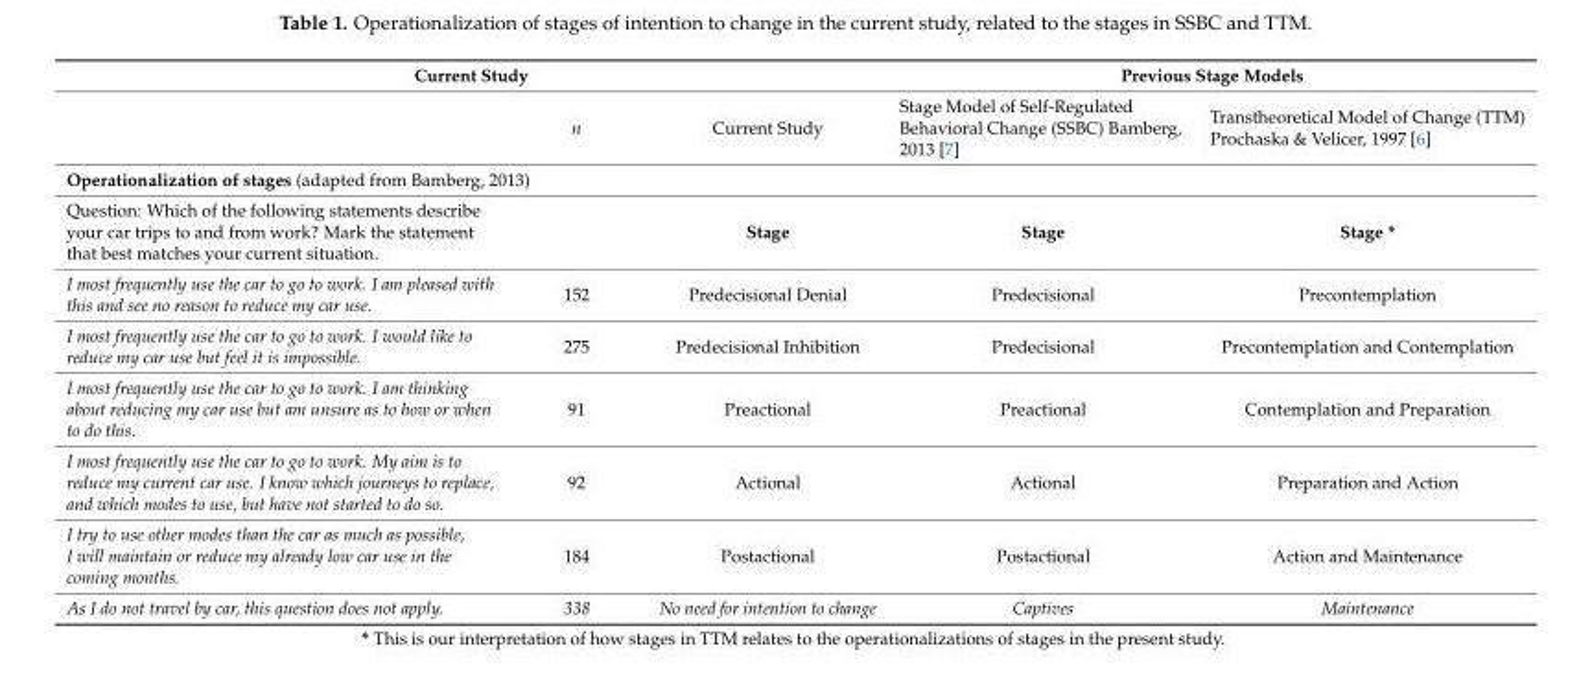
<table><thead><tr><td colspan="3">Current Study</td><td colspan="2">Previous Stage Models</td></tr><tr><td></td><td>n</td><td>Current Study</td><td>Stage Model of Self-Regulated Behavioral Change (SSBC) Bamberg, 2013 [7]</td><td>Transtheoretical Model of Change (TTM) Prochaska &amp; Velicer, 1997 [6]</td></tr></thead><tbody><tr><td colspan="5">Operationalization of stages (adapted from Bamberg, 2013)</td></tr><tr><td>Question: Which of the following statements describe your car trips to and from work? Mark the statement that best matches your current situation.</td><td></td><td>Stage</td><td>Stage</td><td>Stage *</td></tr><tr><td>I most frequently use the car to go to work. I am pleased with this and see no reason to reduce my car use.</td><td>152</td><td>Predecisional Denial</td><td>Predecisional</td><td>Precontemplation</td></tr><tr><td>I most frequently use the car to go to work. I would like to reduce my car use but feel it is impossible.</td><td>275</td><td>Predecisional Inhibition</td><td>Predecisional</td><td>Precontemplation and Contemplation</td></tr><tr><td>I most frequently use the car to go to work. I am thinking about reducing my car use but am unsure as to how or when to do this.</td><td>91</td><td>Preactional</td><td>Preactional</td><td>Contemplation and Preparation</td></tr><tr><td>I most frequently use the car to go to work. My aim is to reduce my current car use. I know which journeys to replace, and which modes to use, but have not started to do so.</td><td>92</td><td>Actional</td><td>Actional</td><td>Preparation and Action</td></tr><tr><td>I try to use other modes than the car as much as possible, I will maintain or reduce my already low car use in the coming months.</td><td>184</td><td>Postactional</td><td>Postactional</td><td>Action and Maintenance</td></tr><tr><td>As I do not travel by car, this question does not apply.</td><td>338</td><td>No need for intention to change</td><td>Captives</td><td>Maintenance</td></tr></tbody></table>